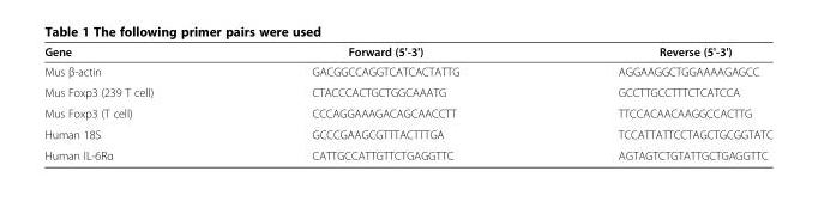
<table><thead><tr><td>Gene</td><td>Forward (5&#x27;-3&#x27;)</td><td>Reverse (5&#x27;-3&#x27;)</td></tr></thead><tbody><tr><td>Mus β-actin</td><td>GACGGCCAGGTCATCACTATTG</td><td>AGGAAGGCTGGAAAAGAGCC</td></tr><tr><td>Mus Foxp3 (239 T cell)</td><td>CTACCCACTGCTGGCAAATG</td><td>GCCTTGCCTTTCTCATCCA</td></tr><tr><td>Mus Foxp3 (T cell)</td><td>CCCAGGAAAGACAGCAACCTT</td><td>TTCCACAACAAGGCCACTTG</td></tr><tr><td>Human 18S</td><td>GCCCGAAGCGTTTACTTTGA</td><td>TCCATTATTCCTAGCTGCGGTATC</td></tr><tr><td>Human IL-6Rα</td><td>CATTGCCATTGTTCTGAGGTTC</td><td>AGTAGTCTGTATTGCTGAGGTTC</td></tr></tbody></table>